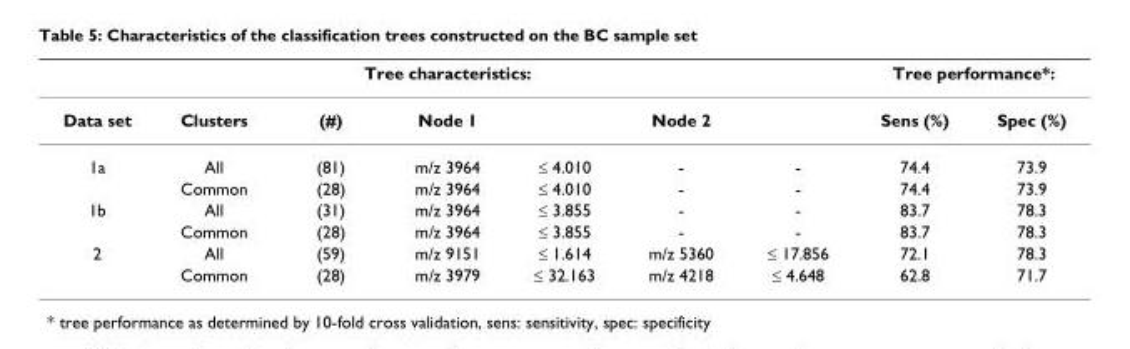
<table><thead><tr><td colspan="7">Tree characteristics:</td><td colspan="2">Tree performance*:</td></tr><tr><td>Data set</td><td>Clusters</td><td>(#)</td><td>Node 1</td><td></td><td>Node 2</td><td></td><td>Sens (%)</td><td>Spec (%)</td></tr></thead><tbody><tr><td rowspan="2">1a</td><td>All</td><td>(81)</td><td>m/z 3964</td><td>≤ 4.010</td><td>-</td><td>-</td><td>74.4</td><td>73.9</td></tr><tr><td>Common</td><td>(28)</td><td>m/z 3964</td><td>≤ 4.010</td><td>-</td><td>-</td><td>74.4</td><td>73.9</td></tr><tr><td rowspan="2">1b</td><td>All</td><td>(31)</td><td>m/z 3964</td><td>≤ 3.855</td><td>-</td><td>-</td><td>83.7</td><td>78.3</td></tr><tr><td>Common</td><td>(28)</td><td>m/z 3964</td><td>≤ 3.855</td><td>-</td><td>-</td><td>83.7</td><td>78.3</td></tr><tr><td rowspan="2">2</td><td>All</td><td>(59)</td><td>m/z 9151</td><td>≤ 1.614</td><td>m/z 5360</td><td>≤ 17.856</td><td>72.1</td><td>78.3</td></tr><tr><td>Common</td><td>(28)</td><td>m/z 3979</td><td>≤ 32.163</td><td>m/z 4218</td><td>≤ 4.648</td><td>62.8</td><td>71.7</td></tr></tbody></table>